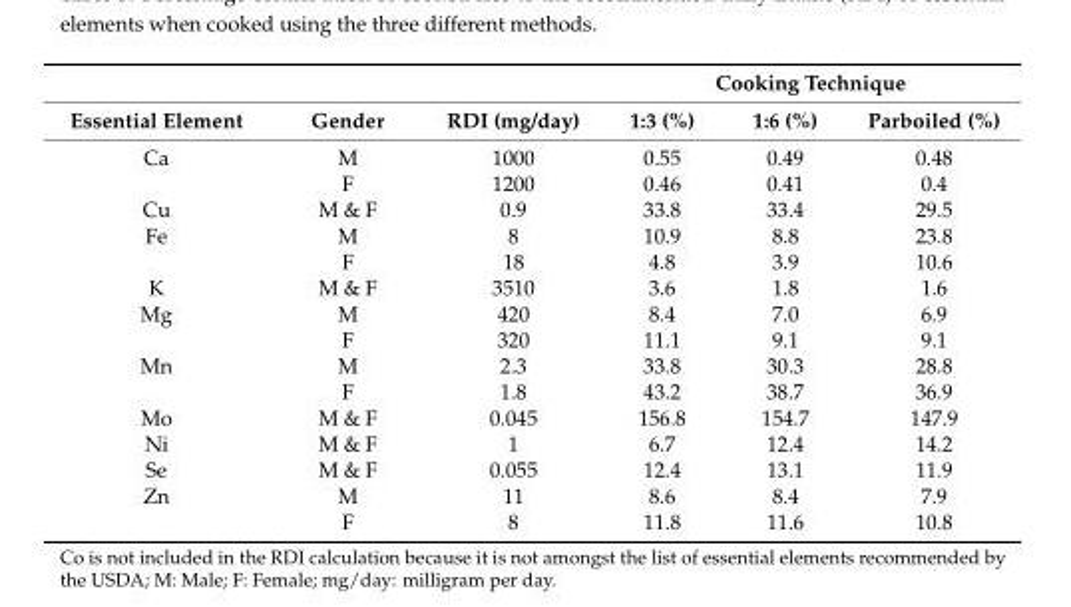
<table><thead><tr><td rowspan="2">Essential Element</td><td rowspan="2">Gender</td><td rowspan="2">RDI (mg/day)</td><td colspan="3">Cooking Technique</td></tr><tr><td>1:3 (%)</td><td>1:6 (%)</td><td>Parboiled (%)</td></tr></thead><tbody><tr><td rowspan="2">Ca</td><td>M</td><td>1000</td><td>0.55</td><td>0.49</td><td>0.48</td></tr><tr><td>F</td><td>1200</td><td>0.46</td><td>0.41</td><td>0.4</td></tr><tr><td>Cu</td><td>M &amp; F</td><td>0.9</td><td>33.8</td><td>33.4</td><td>29.5</td></tr><tr><td rowspan="2">Fe</td><td>M</td><td>8</td><td>10.9</td><td>8.8</td><td>23.8</td></tr><tr><td>F</td><td>18</td><td>4.8</td><td>3.9</td><td>10.6</td></tr><tr><td>K</td><td>M &amp; F</td><td>3510</td><td>3.6</td><td>1.8</td><td>1.6</td></tr><tr><td rowspan="2">Mg</td><td>M</td><td>420</td><td>8.4</td><td>7.0</td><td>6.9</td></tr><tr><td>F</td><td>320</td><td>11.1</td><td>9.1</td><td>9.1</td></tr><tr><td rowspan="2">Mn</td><td>M</td><td>2.3</td><td>33.8</td><td>30.3</td><td>28.8</td></tr><tr><td>F</td><td>1.8</td><td>43.2</td><td>38.7</td><td>36.9</td></tr><tr><td>Mo</td><td>M &amp; F</td><td>0.045</td><td>156.8</td><td>154.7</td><td>147.9</td></tr><tr><td>Ni</td><td>M &amp; F</td><td>1</td><td>6.7</td><td>12.4</td><td>14.2</td></tr><tr><td>Se</td><td>M &amp; F</td><td>0.055</td><td>12.4</td><td>13.1</td><td>11.9</td></tr><tr><td rowspan="2">Zn</td><td>M</td><td>11</td><td>8.6</td><td>8.4</td><td>7.9</td></tr><tr><td>F</td><td>8</td><td>11.8</td><td>11.6</td><td>10.8</td></tr></tbody></table>